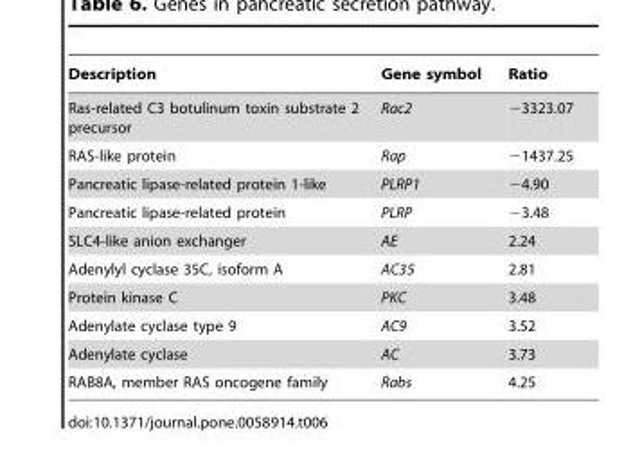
<table><thead><tr><td>Description</td><td>Gene symbol</td><td>Ratio</td></tr></thead><tbody><tr><td>Ras-related C3 botulinum toxin substrate 2 precursor</td><td>Rac2</td><td>−3323.07</td></tr><tr><td>RAS-like protein</td><td>Rap</td><td>−1437.25</td></tr><tr><td>Pancreatic lipase-related protein 1-like</td><td>PLRP1</td><td>−4.90</td></tr><tr><td>Pancreatic lipase-related protein</td><td>PLRP</td><td>−3.48</td></tr><tr><td>SLC4-like anion exchanger</td><td>AE</td><td>2.24</td></tr><tr><td>Adenylyl cyclase 35C, isoform A</td><td>AC35</td><td>2.81</td></tr><tr><td>Protein kinase C</td><td>PKC</td><td>3.48</td></tr><tr><td>Adenylate cyclase type 9</td><td>AC9</td><td>3.52</td></tr><tr><td>Adenylate cyclase</td><td>AC</td><td>3.73</td></tr><tr><td>RAB8A, member RAS oncogene family</td><td>Rabs</td><td>4.25</td></tr></tbody></table>